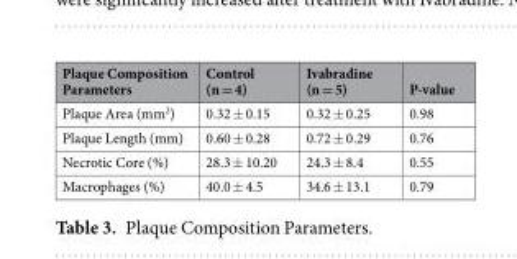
<table><thead><tr><td>Plaque Composition Parameters</td><td>Control (n = 4)</td><td>Ivabradine (n = 5)</td><td>P-value</td></tr></thead><tbody><tr><td>Plaque Area (mm<sup>2</sup>)</td><td>0.32 ± 0.15</td><td>0.32 ± 0.25</td><td>0.98</td></tr><tr><td>Plaque Length (mm)</td><td>0.60 ± 0.28</td><td>0.72 ± 0.29</td><td>0.76</td></tr><tr><td>Necrotic Core (%)</td><td>28.3 ± 10.20</td><td>24.3 ± 8.4</td><td>0.55</td></tr><tr><td>Macrophages (%)</td><td>40.0 ± 4.5</td><td>34.6 ± 13.1</td><td>0.79</td></tr></tbody></table>